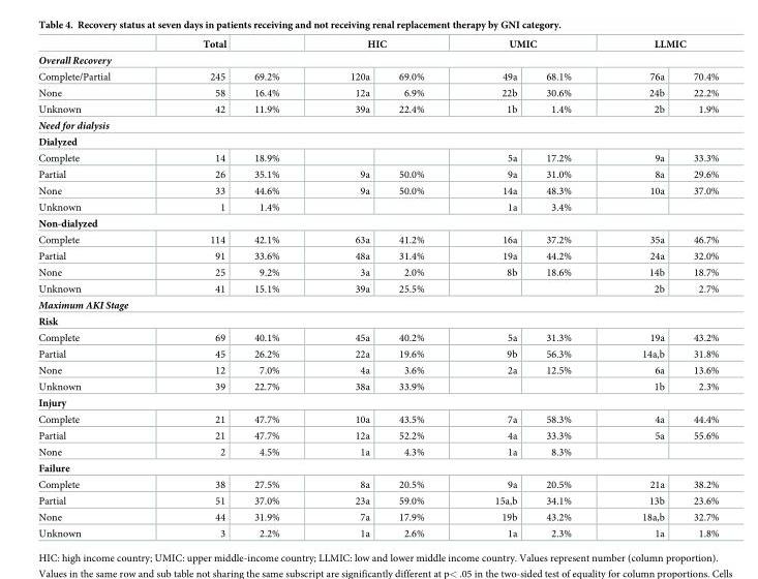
<table><thead><tr><td></td><td>Total</td><td></td><td colspan="2">HIC</td><td colspan="2">UMIC</td><td colspan="2">LLMIC</td></tr><tr><td colspan="9">Overall Recovery</td></tr><tr><td>Complete/Partial</td><td>245</td><td>69.2%</td><td>120a</td><td>69.0%</td><td>49a</td><td>68.1%</td><td>76a</td><td>70.4%</td></tr></thead><tbody><tr><td>None</td><td>58</td><td>16.4%</td><td>12a</td><td>6.9%</td><td>22b</td><td>30.6%</td><td>24b</td><td>22.2%</td></tr><tr><td>Unknown</td><td>42</td><td>11.9%</td><td>39a</td><td>22.4%</td><td>1b</td><td>1.4%</td><td>2b</td><td>1.9%</td></tr><tr><td colspan="9">Need for dialysis</td></tr><tr><td colspan="9">Dialyzed</td></tr><tr><td>Complete</td><td>14</td><td>18.9%</td><td></td><td></td><td>5a</td><td>17.2%</td><td>9a</td><td>33.3%</td></tr><tr><td>Partial</td><td>26</td><td>35.1%</td><td>9a</td><td>50.0%</td><td>9a</td><td>31.0%</td><td>8a</td><td>29.6%</td></tr><tr><td>None</td><td>33</td><td>44.6%</td><td>9a</td><td>50.0%</td><td>14a</td><td>48.3%</td><td>10a</td><td>37.0%</td></tr><tr><td>Unknown</td><td>1</td><td>1.4%</td><td></td><td></td><td>1a</td><td>3.4%</td><td></td><td></td></tr><tr><td colspan="9">Non-dialyzed</td></tr><tr><td>Complete</td><td>114</td><td>42.1%</td><td>63a</td><td>41.2%</td><td>16a</td><td>37.2%</td><td>35a</td><td>46.7%</td></tr><tr><td>Partial</td><td>91</td><td>33.6%</td><td>48a</td><td>31.4%</td><td>19a</td><td>44.2%</td><td>24a</td><td>32.0%</td></tr><tr><td>None</td><td>25</td><td>9.2%</td><td>3a</td><td>2.0%</td><td>8b</td><td>18.6%</td><td>14b</td><td>18.7%</td></tr><tr><td>Unknown</td><td>41</td><td>15.1%</td><td>39a</td><td>25.5%</td><td></td><td></td><td>2b</td><td>2.7%</td></tr><tr><td colspan="9">Maximum AKI Stage</td></tr><tr><td colspan="9">Risk</td></tr><tr><td>Complete</td><td>69</td><td>40.1%</td><td>45a</td><td>40.2%</td><td>5a</td><td>31.3%</td><td>19a</td><td>43.2%</td></tr><tr><td>Partial</td><td>45</td><td>26.2%</td><td>22a</td><td>19.6%</td><td>9b</td><td>56.3%</td><td>14a,b</td><td>31.8%</td></tr><tr><td>None</td><td>12</td><td>7.0%</td><td>4a</td><td>3.6%</td><td>2a</td><td>12.5%</td><td>6a</td><td>13.6%</td></tr><tr><td>Unknown</td><td>39</td><td>22.7%</td><td>38a</td><td>33.9%</td><td></td><td></td><td>1b</td><td>2.3%</td></tr><tr><td colspan="9">Injury</td></tr><tr><td>Complete</td><td>21</td><td>47.7%</td><td>10a</td><td>43.5%</td><td>7a</td><td>58.3%</td><td>4a</td><td>44.4%</td></tr><tr><td>Partial</td><td>21</td><td>47.7%</td><td>12a</td><td>52.2%</td><td>4a</td><td>33.3%</td><td>5a</td><td>55.6%</td></tr><tr><td>None</td><td>2</td><td>4.5%</td><td>1a</td><td>4.3%</td><td>1a</td><td>8.3%</td><td></td><td></td></tr><tr><td colspan="9">Failure</td></tr><tr><td>Complete</td><td>38</td><td>27.5%</td><td>8a</td><td>20.5%</td><td>9a</td><td>20.5%</td><td>21a</td><td>38.2%</td></tr><tr><td>Partial</td><td>51</td><td>37.0%</td><td>23a</td><td>59.0%</td><td>15a,b</td><td>34.1%</td><td>13b</td><td>23.6%</td></tr><tr><td>None</td><td>44</td><td>31.9%</td><td>7a</td><td>17.9%</td><td>19b</td><td>43.2%</td><td>18a,b</td><td>32.7%</td></tr><tr><td>Unknown</td><td>3</td><td>2.2%</td><td>1a</td><td>2.6%</td><td>1a</td><td>2.3%</td><td>1a</td><td>1.8%</td></tr></tbody></table>